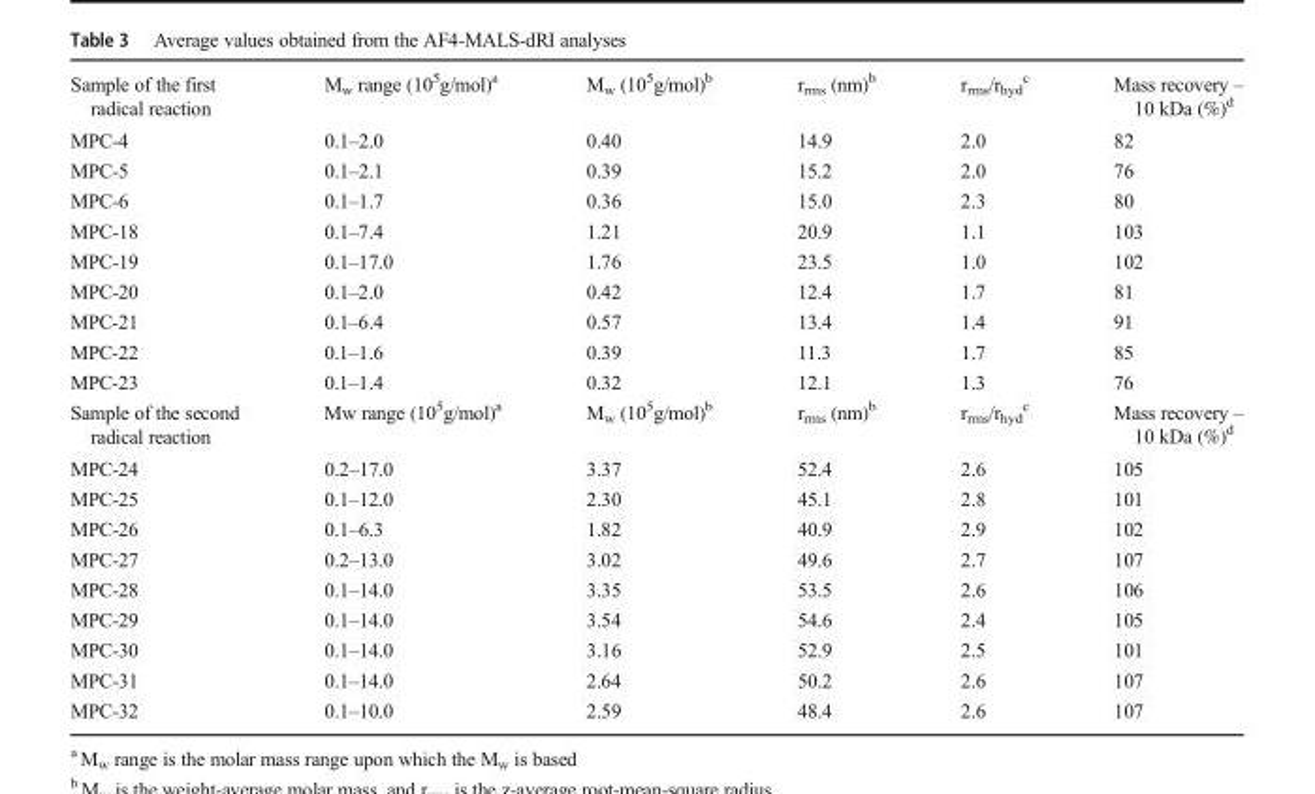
<table><tbody><tr><td>Sample of the first radical reaction</td><td>M<sub>w</sub> range (10<sup>5</sup>g/mol)<sup>a</sup></td><td>M<sub>w</sub> (10<sup>5</sup>g/mol)<sup>b</sup></td><td>r<sub>rms</sub> (nm)<sup>b</sup></td><td>r<sub>rms</sub>/r<sub>hyd</sub> <sup>c</sup></td><td>Mass recovery – 10 kDa (%)<sup>d</sup></td></tr><tr><td>MPC-4</td><td>0.1–2.0</td><td>0.40</td><td>14.9</td><td>2.0</td><td>82</td></tr><tr><td>MPC-5</td><td>0.1–2.1</td><td>0.39</td><td>15.2</td><td>2.0</td><td>76</td></tr><tr><td>MPC-6</td><td>0.1–1.7</td><td>0.36</td><td>15.0</td><td>2.3</td><td>80</td></tr><tr><td>MPC-18</td><td>0.1–7.4</td><td>1.21</td><td>20.9</td><td>1.1</td><td>103</td></tr><tr><td>MPC-19</td><td>0.1–17.0</td><td>1.76</td><td>23.5</td><td>1.0</td><td>102</td></tr><tr><td>MPC-20</td><td>0.1–2.0</td><td>0.42</td><td>12.4</td><td>1.7</td><td>81</td></tr><tr><td>MPC-21</td><td>0.1–6.4</td><td>0.57</td><td>13.4</td><td>1.4</td><td>91</td></tr><tr><td>MPC-22</td><td>0.1–1.6</td><td>0.39</td><td>11.3</td><td>1.7</td><td>85</td></tr><tr><td>MPC-23</td><td>0.1–1.4</td><td>0.32</td><td>12.1</td><td>1.3</td><td>76</td></tr><tr><td>Sample of the second radical reaction</td><td>Mw range (10<sup>5</sup>g/mol)<sup>a</sup></td><td>M<sub>w</sub> (10<sup>5</sup>g/mol)<sup>b</sup></td><td>r<sub>rms</sub> (nm)<sup>b</sup></td><td>r<sub>rms</sub>/r<sub>hyd</sub> <sup>c</sup></td><td>Mass recovery – 10 kDa (%)<sup>d</sup></td></tr><tr><td>MPC-24</td><td>0.2–17.0</td><td>3.37</td><td>52.4</td><td>2.6</td><td>105</td></tr><tr><td>MPC-25</td><td>0.1–12.0</td><td>2.30</td><td>45.1</td><td>2.8</td><td>101</td></tr><tr><td>MPC-26</td><td>0.1–6.3</td><td>1.82</td><td>40.9</td><td>2.9</td><td>102</td></tr><tr><td>MPC-27</td><td>0.2–13.0</td><td>3.02</td><td>49.6</td><td>2.7</td><td>107</td></tr><tr><td>MPC-28</td><td>0.1–14.0</td><td>3.35</td><td>53.5</td><td>2.6</td><td>106</td></tr><tr><td>MPC-29</td><td>0.1–14.0</td><td>3.54</td><td>54.6</td><td>2.4</td><td>105</td></tr><tr><td>MPC-30</td><td>0.1–14.0</td><td>3.16</td><td>52.9</td><td>2.5</td><td>101</td></tr><tr><td>MPC-31</td><td>0.1–14.0</td><td>2.64</td><td>50.2</td><td>2.6</td><td>107</td></tr><tr><td>MPC-32</td><td>0.1–10.0</td><td>2.59</td><td>48.4</td><td>2.6</td><td>107</td></tr></tbody></table>